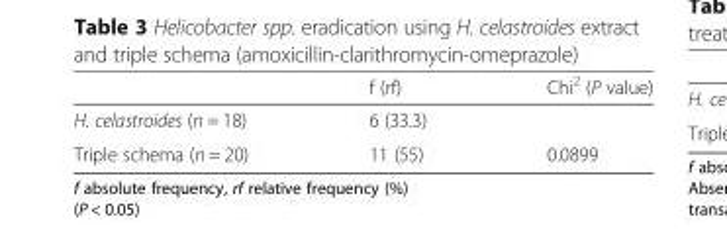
<table><thead><tr><td></td><td>f (rf)</td><td>Chi<sup>2</sup> (P value)</td></tr></thead><tbody><tr><td>H. celastroides (n = 18)</td><td>6 (33.3)</td><td></td></tr><tr><td>Triple schema (n = 20)</td><td>11 (55)</td><td>0.0899</td></tr></tbody></table>